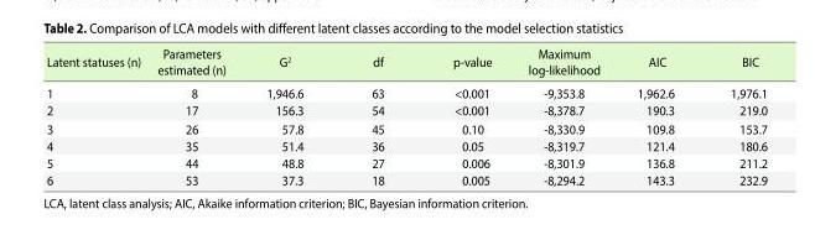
<table><thead><tr><td>Latent statuses (n)</td><td>Parameters estimated (n)</td><td>G<sup>2</sup></td><td>df</td><td>p-value</td><td>Maximum log-likelihood</td><td>AIC</td><td>BIC</td></tr></thead><tbody><tr><td>1</td><td>8</td><td>1,946.6</td><td>63</td><td>&lt;0.001</td><td>-9,353.8</td><td>1,962.6</td><td>1,976.1</td></tr><tr><td>2</td><td>17</td><td>156.3</td><td>54</td><td>&lt;0.001</td><td>-8,378.7</td><td>190.3</td><td>219.0</td></tr><tr><td>3</td><td>26</td><td>57.8</td><td>45</td><td>0.10</td><td>-8,330.9</td><td>109.8</td><td>153.7</td></tr><tr><td>4</td><td>35</td><td>51.4</td><td>36</td><td>0.05</td><td>-8,319.7</td><td>121.4</td><td>180.6</td></tr><tr><td>5</td><td>44</td><td>48.8</td><td>27</td><td>0.006</td><td>-8,301.9</td><td>136.8</td><td>211.2</td></tr><tr><td>6</td><td>53</td><td>37.3</td><td>18</td><td>0.005</td><td>-8,294.2</td><td>143.3</td><td>232.9</td></tr></tbody></table>